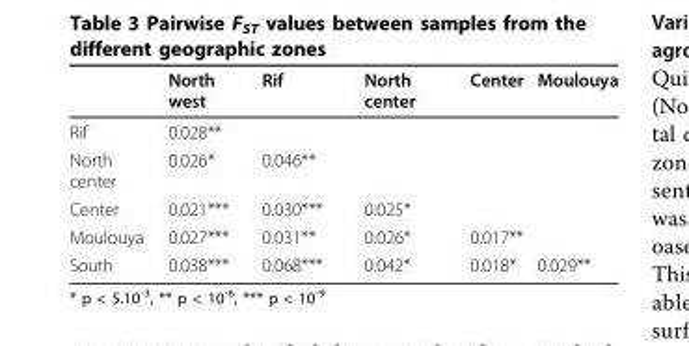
<table><thead><tr><td></td><td>North west</td><td>Rif</td><td>North center</td><td>Center</td><td>Moulouya</td></tr></thead><tbody><tr><td>Rif</td><td>0.028**</td><td></td><td></td><td></td><td></td></tr><tr><td>North center</td><td>0.026*</td><td>0.046**</td><td></td><td></td><td></td></tr><tr><td>Center</td><td>0.021***</td><td>0.030***</td><td>0.025*</td><td></td><td></td></tr><tr><td>Moulouya</td><td>0.027***</td><td>0.031**</td><td>0.026*</td><td>0.017**</td><td></td></tr><tr><td>South</td><td>0.038***</td><td>0.068***</td><td>0.042*</td><td>0.018*</td><td>0.029**</td></tr></tbody></table>